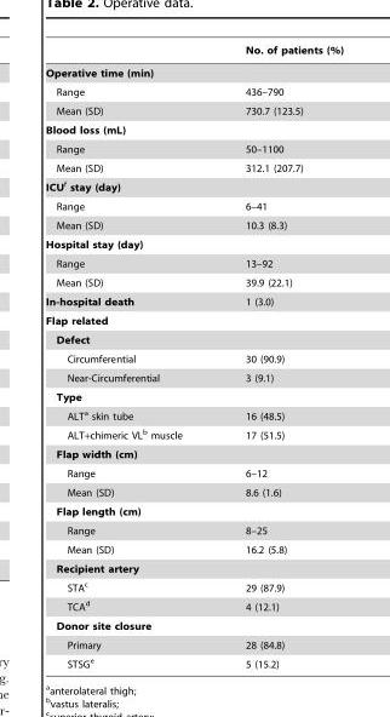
<table><thead><tr><td></td><td>No. of patients (%)</td></tr></thead><tbody><tr><td colspan="2">Operative time (min)</td></tr><tr><td>Range</td><td>436–790</td></tr><tr><td>Mean (SD)</td><td>730.7 (123.5)</td></tr><tr><td colspan="2">Blood loss (mL)</td></tr><tr><td>Range</td><td>50–1100</td></tr><tr><td>Mean (SD)</td><td>312.1 (207.7)</td></tr><tr><td colspan="2">ICUf stay (day)</td></tr><tr><td>Range</td><td>6–41</td></tr><tr><td>Mean (SD)</td><td>10.3 (8.3)</td></tr><tr><td colspan="2">Hospital stay (day)</td></tr><tr><td>Range</td><td>13–92</td></tr><tr><td>Mean (SD)</td><td>39.9 (22.1)</td></tr><tr><td>In-hospital death</td><td>1 (3.0)</td></tr><tr><td colspan="2">Flap related</td></tr><tr><td colspan="2">Defect</td></tr><tr><td>Circumferential</td><td>30 (90.9)</td></tr><tr><td>Near-Circumferential</td><td>3 (9.1)</td></tr><tr><td colspan="2">Type</td></tr><tr><td>ALT<sup>a</sup> skin tube</td><td>16 (48.5)</td></tr><tr><td>ALT+chimeric VL<sup>b</sup> muscle</td><td>17 (51.5)</td></tr><tr><td colspan="2">Flap width (cm)</td></tr><tr><td>Range</td><td>6–12</td></tr><tr><td>Mean (SD)</td><td>8.6 (1.6)</td></tr><tr><td colspan="2">Flap length (cm)</td></tr><tr><td>Range</td><td>8–25</td></tr><tr><td>Mean (SD)</td><td>16.2 (5.8)</td></tr><tr><td colspan="2">Recipient artery</td></tr><tr><td>STA<sup>c</sup></td><td>29 (87.9)</td></tr><tr><td>TCA<sup>d</sup></td><td>4 (12.1)</td></tr><tr><td colspan="2">Donor site closure</td></tr><tr><td>Primary</td><td>28 (84.8)</td></tr><tr><td>STSG<sup>e</sup></td><td>5 (15.2)</td></tr></tbody></table>